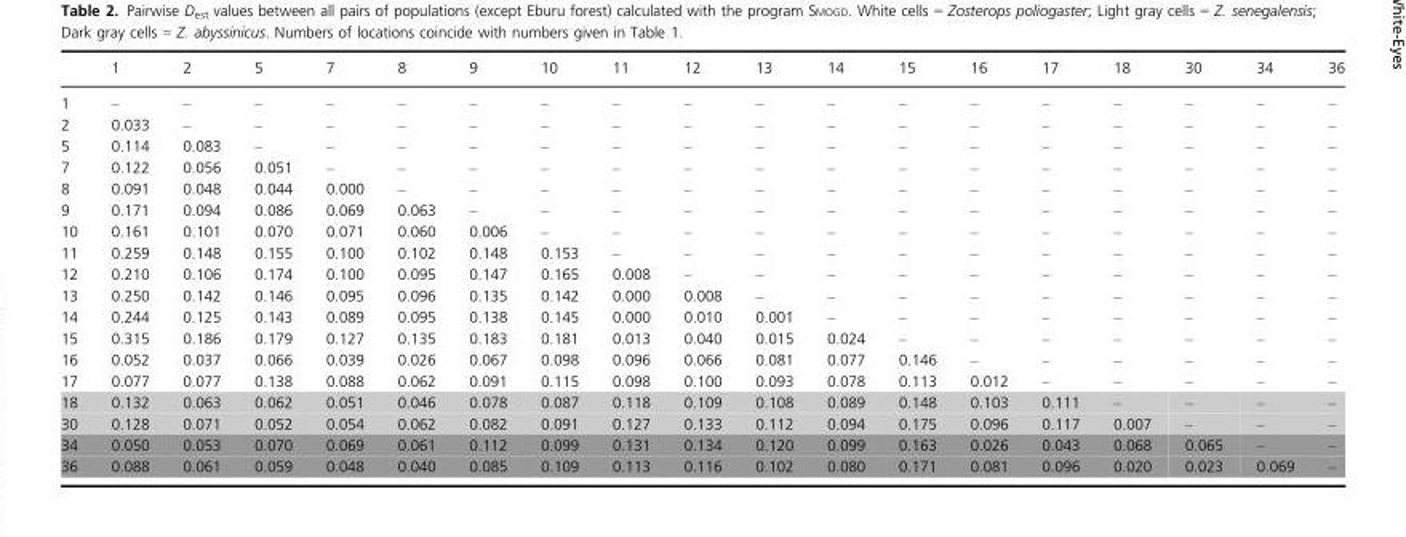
<table><thead><tr><td></td><td>1</td><td>2</td><td>5</td><td>7</td><td>8</td><td>9</td><td>10</td><td>11</td><td>12</td><td>13</td><td>14</td><td>15</td><td>16</td><td>17</td><td>18</td><td>30</td><td>34</td><td>36</td></tr></thead><tbody><tr><td>1</td><td>–</td><td>–</td><td>–</td><td>–</td><td>–</td><td>–</td><td>–</td><td>–</td><td>–</td><td>–</td><td>–</td><td>–</td><td>–</td><td>–</td><td>–</td><td>–</td><td>–</td><td>–</td></tr><tr><td>2</td><td>0.033</td><td>–</td><td>–</td><td>–</td><td>–</td><td>–</td><td>–</td><td>–</td><td>–</td><td>–</td><td>–</td><td>–</td><td>–</td><td>–</td><td>–</td><td>–</td><td>–</td><td>–</td></tr><tr><td>5</td><td>0.114</td><td>0.083</td><td>–</td><td>–</td><td>–</td><td>–</td><td>–</td><td>–</td><td>–</td><td>–</td><td>–</td><td>–</td><td>–</td><td>–</td><td>–</td><td>–</td><td>–</td><td>–</td></tr><tr><td>7</td><td>0.122</td><td>0.056</td><td>0.051</td><td>–</td><td>–</td><td>–</td><td>–</td><td>–</td><td>–</td><td>–</td><td>–</td><td>–</td><td>–</td><td>–</td><td>–</td><td>–</td><td>–</td><td>–</td></tr><tr><td>8</td><td>0.091</td><td>0.048</td><td>0.044</td><td>0.000</td><td>–</td><td>–</td><td>–</td><td>–</td><td>–</td><td>–</td><td>–</td><td>–</td><td>–</td><td>–</td><td>–</td><td>–</td><td>–</td><td>–</td></tr><tr><td>9</td><td>0.171</td><td>0.094</td><td>0.086</td><td>0.069</td><td>0.063</td><td>–</td><td>–</td><td>–</td><td>–</td><td>–</td><td>–</td><td>–</td><td>–</td><td>–</td><td>–</td><td>–</td><td>–</td><td>–</td></tr><tr><td>10</td><td>0.161</td><td>0.101</td><td>0.070</td><td>0.071</td><td>0.060</td><td>0.006</td><td>–</td><td>–</td><td>–</td><td>–</td><td>–</td><td>–</td><td>–</td><td>–</td><td>–</td><td>–</td><td>–</td><td>–</td></tr><tr><td>11</td><td>0.259</td><td>0.148</td><td>0.155</td><td>0.100</td><td>0.102</td><td>0.148</td><td>0.153</td><td>–</td><td>–</td><td>–</td><td>–</td><td>–</td><td>–</td><td>–</td><td>–</td><td>–</td><td>–</td><td>–</td></tr><tr><td>12</td><td>0.210</td><td>0.106</td><td>0.174</td><td>0.100</td><td>0.095</td><td>0.147</td><td>0.165</td><td>0.008</td><td>–</td><td>–</td><td>–</td><td>–</td><td>–</td><td>–</td><td>–</td><td>–</td><td>–</td><td>–</td></tr><tr><td>13</td><td>0.250</td><td>0.142</td><td>0.146</td><td>0.095</td><td>0.096</td><td>0.135</td><td>0.142</td><td>0.000</td><td>0.008</td><td>–</td><td>–</td><td>–</td><td>–</td><td>–</td><td>–</td><td>–</td><td>–</td><td>–</td></tr><tr><td>14</td><td>0.244</td><td>0.125</td><td>0.143</td><td>0.089</td><td>0.095</td><td>0.138</td><td>0.145</td><td>0.000</td><td>0.010</td><td>0.001</td><td>–</td><td>–</td><td>–</td><td>–</td><td>–</td><td>–</td><td>–</td><td>–</td></tr><tr><td>15</td><td>0.315</td><td>0.186</td><td>0.179</td><td>0.127</td><td>0.135</td><td>0.183</td><td>0.181</td><td>0.013</td><td>0.040</td><td>0.015</td><td>0.024</td><td>–</td><td>–</td><td>–</td><td>–</td><td>–</td><td>–</td><td>–</td></tr><tr><td>16</td><td>0.052</td><td>0.037</td><td>0.066</td><td>0.039</td><td>0.026</td><td>0.067</td><td>0.098</td><td>0.096</td><td>0.066</td><td>0.081</td><td>0.077</td><td>0.146</td><td>–</td><td>–</td><td>–</td><td>–</td><td>–</td><td>–</td></tr><tr><td>17</td><td>0.077</td><td>0.077</td><td>0.138</td><td>0.088</td><td>0.062</td><td>0.091</td><td>0.115</td><td>0.098</td><td>0.100</td><td>0.093</td><td>0.078</td><td>0.113</td><td>0.012</td><td>–</td><td>–</td><td>–</td><td>–</td><td>–</td></tr><tr><td>18</td><td>0.132</td><td>0.063</td><td>0.062</td><td>0.051</td><td>0.046</td><td>0.078</td><td>0.087</td><td>0.118</td><td>0.109</td><td>0.108</td><td>0.089</td><td>0.148</td><td>0.103</td><td>0.111</td><td>–</td><td>–</td><td>–</td><td>–</td></tr><tr><td>30</td><td>0.128</td><td>0.071</td><td>0.052</td><td>0.054</td><td>0.062</td><td>0.082</td><td>0.091</td><td>0.127</td><td>0.133</td><td>0.112</td><td>0.094</td><td>0.175</td><td>0.096</td><td>0.117</td><td>0.007</td><td>–</td><td>–</td><td>–</td></tr><tr><td>34</td><td>0.050</td><td>0.053</td><td>0.070</td><td>0.069</td><td>0.061</td><td>0.112</td><td>0.099</td><td>0.131</td><td>0.134</td><td>0.120</td><td>0.099</td><td>0.163</td><td>0.026</td><td>0.043</td><td>0.068</td><td>0.065</td><td>–</td><td>–</td></tr><tr><td>36</td><td>0.088</td><td>0.061</td><td>0.059</td><td>0.048</td><td>0.040</td><td>0.085</td><td>0.109</td><td>0.113</td><td>0.116</td><td>0.102</td><td>0.080</td><td>0.171</td><td>0.081</td><td>0.096</td><td>0.020</td><td>0.023</td><td>0.069</td><td>–</td></tr></tbody></table>